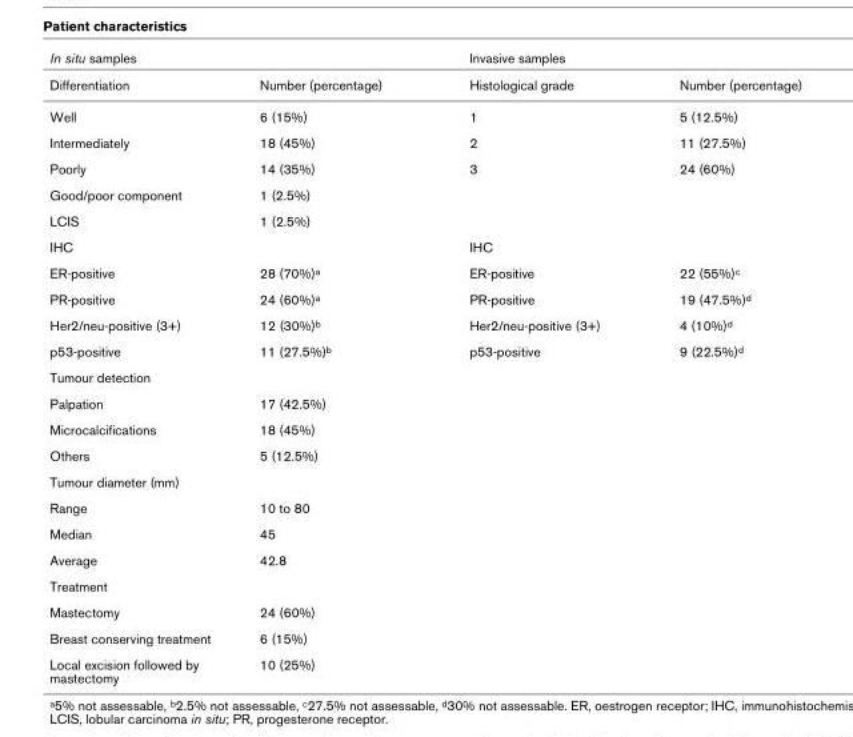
<table><thead><tr><td colspan="2">In situ samples</td><td colspan="2">Invasive samples</td></tr><tr><td>Differentiation</td><td>Number (percentage)</td><td>Histological grade</td><td>Number (percentage)</td></tr></thead><tbody><tr><td>Well</td><td>6 (15%)</td><td>1</td><td>5 (12.5%)</td></tr><tr><td>Intermediately</td><td>18 (45%)</td><td>2</td><td>11 (27.5%)</td></tr><tr><td>Poorly</td><td>14 (35%)</td><td>3</td><td>24 (60%)</td></tr><tr><td>Good/poor component</td><td>1 (2.5%)</td><td></td><td></td></tr><tr><td>LCIS</td><td>1 (2.5%)</td><td></td><td></td></tr><tr><td>IHC</td><td></td><td>IHC</td><td></td></tr><tr><td>ER-positive</td><td>28 (70%)a</td><td>ER-positive</td><td>22 (55%)c</td></tr><tr><td>PR-positive</td><td>24 (60%)a</td><td>PR-positive</td><td>19 (47.5%)d</td></tr><tr><td>Her2/neu-positive (3+)</td><td>12 (30%)b</td><td>Her2/neu-positive (3+)</td><td>4 (10%)d</td></tr><tr><td>p53-positive</td><td>11 (27.5%)b</td><td>p53-positive</td><td>9 (22.5%)d</td></tr><tr><td colspan="4">Tumour detection</td></tr><tr><td>Palpation</td><td>17 (42.5%)</td><td></td><td></td></tr><tr><td>Microcalcifications</td><td>18 (45%)</td><td></td><td></td></tr><tr><td>Others</td><td>5 (12.5%)</td><td></td><td></td></tr><tr><td colspan="4">Tumour diameter (mm)</td></tr><tr><td>Range</td><td>10 to 80</td><td></td><td></td></tr><tr><td>Median</td><td>45</td><td></td><td></td></tr><tr><td>Average</td><td>42.8</td><td></td><td></td></tr><tr><td colspan="4">Treatment</td></tr><tr><td>Mastectomy</td><td>24 (60%)</td><td></td><td></td></tr><tr><td>Breast conserving treatment</td><td>6 (15%)</td><td></td><td></td></tr><tr><td>Local excision followed by mastectomy</td><td>10 (25%)</td><td></td><td></td></tr></tbody></table>